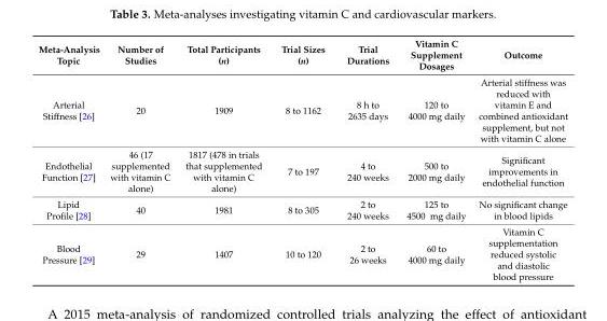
<table><thead><tr><td>Meta-Analysis Topic</td><td>Number of Studies</td><td>Total Participants (n)</td><td>Trial Sizes (n)</td><td>Trial Durations</td><td>Vitamin C Supplement Dosages</td><td>Outcome</td></tr></thead><tbody><tr><td>Arterial Stiffness [26]</td><td>20</td><td>1909</td><td>8 to 1162</td><td>8 h to 2635 days</td><td>120 to 4000 mg daily</td><td>Arterial stiffness was reduced with vitamin E and combined antioxidant supplement, but not with vitamin C alone</td></tr><tr><td>Endothelial Function [27]</td><td>46 (17 supplemented with vitamin C alone)</td><td>1817 (478 in trials that supplemented with vitamin C alone)</td><td>7 to 197</td><td>4 to 240 weeks</td><td>500 to 2000 mg daily</td><td>Significant improvements in endothelial function</td></tr><tr><td>Lipid Profile [28]</td><td>40</td><td>1981</td><td>8 to 305</td><td>2 to 240 weeks</td><td>125 to 4500 mg daily</td><td>No significant change in blood lipids</td></tr><tr><td>Blood Pressure [29]</td><td>29</td><td>1407</td><td>10 to 120</td><td>2 to 26 weeks</td><td>60 to 4000 mg daily</td><td>Vitamin C supplementation reduced systolic and diastolic blood pressure</td></tr></tbody></table>